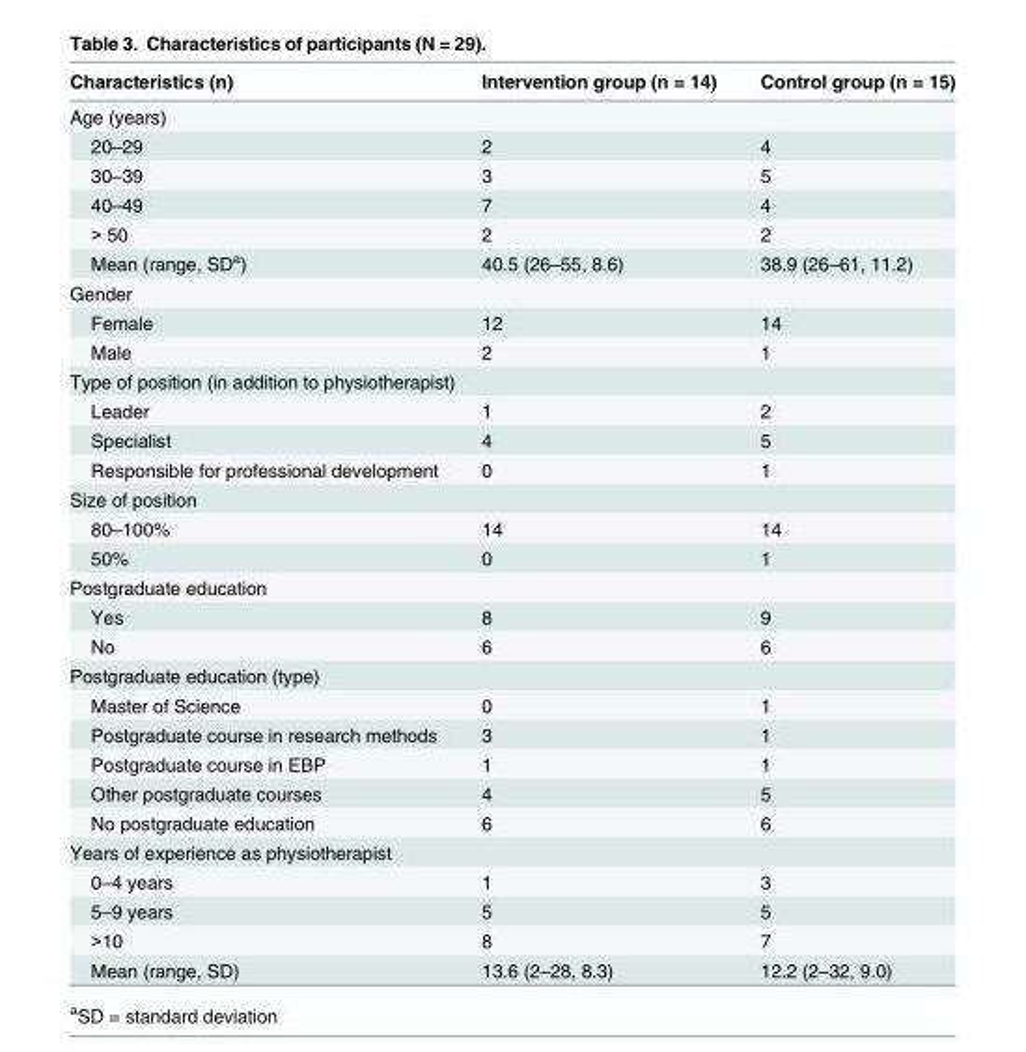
<table><thead><tr><td>Characteristics (n)</td><td>Intervention group (n = 14)</td><td>Control group (n = 15)</td></tr></thead><tbody><tr><td colspan="3">Age (years)</td></tr><tr><td>20–29</td><td>2</td><td>4</td></tr><tr><td>30–39</td><td>3</td><td>5</td></tr><tr><td>40–49</td><td>7</td><td>4</td></tr><tr><td>&gt; 50</td><td>2</td><td>2</td></tr><tr><td>Mean (range, SD<sup>a</sup>)</td><td>40.5 (26–55, 8.6)</td><td>38.9 (26–61, 11.2)</td></tr><tr><td colspan="3">Gender</td></tr><tr><td>Female</td><td>12</td><td>14</td></tr><tr><td>Male</td><td>2</td><td>1</td></tr><tr><td colspan="3">Type of position (in addition to physiotherapist)</td></tr><tr><td>Leader</td><td>1</td><td>2</td></tr><tr><td>Specialist</td><td>4</td><td>5</td></tr><tr><td>Responsible for professional development</td><td>0</td><td>1</td></tr><tr><td colspan="3">Size of position</td></tr><tr><td>80–100%</td><td>14</td><td>14</td></tr><tr><td>50%</td><td>0</td><td>1</td></tr><tr><td colspan="3">Postgraduate education</td></tr><tr><td>Yes</td><td>8</td><td>9</td></tr><tr><td>No</td><td>6</td><td>6</td></tr><tr><td colspan="3">Postgraduate education (type)</td></tr><tr><td>Master of Science</td><td>0</td><td>1</td></tr><tr><td>Postgraduate course in research methods</td><td>3</td><td>1</td></tr><tr><td>Postgraduate course in EBP</td><td>1</td><td>1</td></tr><tr><td>Other postgraduate courses</td><td>4</td><td>5</td></tr><tr><td>No postgraduate education</td><td>6</td><td>6</td></tr><tr><td colspan="3">Years of experience as physiotherapist</td></tr><tr><td>0–4 years</td><td>1</td><td>3</td></tr><tr><td>5–9 years</td><td>5</td><td>5</td></tr><tr><td>&gt;10</td><td>8</td><td>7</td></tr><tr><td>Mean (range, SD)</td><td>13.6 (2–28, 8.3)</td><td>12.2 (2–32, 9.0)</td></tr></tbody></table>